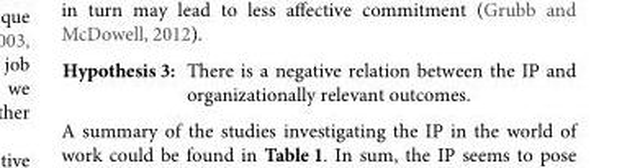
<table><tbody><tr><td>Hypothesis 3:</td><td>There is a negative relation between the IP and organizationally relevant outcomes.</td></tr></tbody></table>